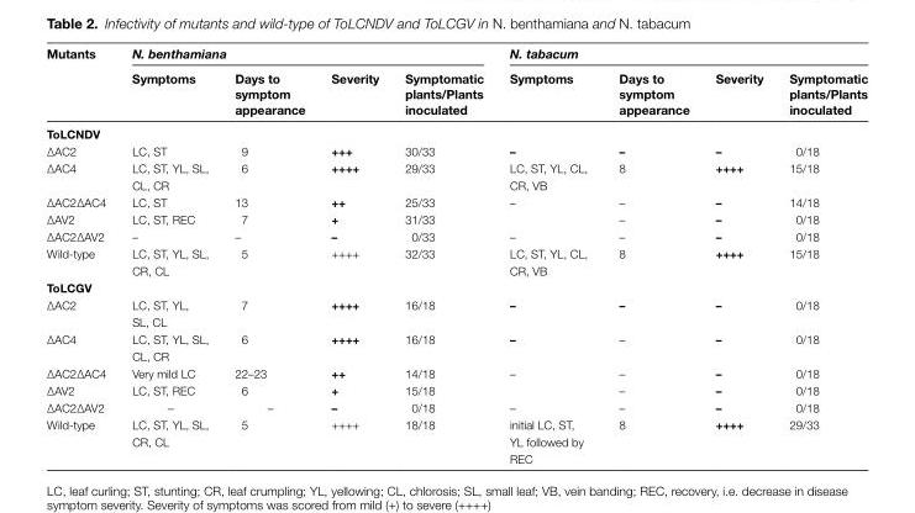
<table><thead><tr><td rowspan="2">Mutants</td><td colspan="4">N. benthamiana</td><td colspan="4">N. tabacum</td></tr><tr><td>Symptoms</td><td>Days to symptom appearance</td><td>Severity</td><td>Symptomatic plants/Plants inoculated</td><td>Symptoms</td><td>Days to symptom appearance</td><td>Severity</td><td>Symptomatic plants/Plants inoculated</td></tr></thead><tbody><tr><td colspan="9">ToLCNDV</td></tr><tr><td>∆AC2</td><td>LC, ST</td><td>9</td><td>+++</td><td>30/33</td><td>–</td><td>–</td><td>–</td><td>0/18</td></tr><tr><td>∆AC4</td><td>LC, ST, YL, SL, CL, CR</td><td>6</td><td>++++</td><td>29/33</td><td>LC, ST, YL, CL, CR, VB</td><td>8</td><td>++++</td><td>15/18</td></tr><tr><td>∆AC2∆AC4</td><td>LC, ST</td><td>13</td><td>++</td><td>25/33</td><td>–</td><td>–</td><td>–</td><td>14/18</td></tr><tr><td>∆AV2</td><td>LC, ST, REC</td><td>7</td><td>+</td><td>31/33</td><td></td><td>–</td><td>–</td><td>0/18</td></tr><tr><td>∆AC2∆AV2</td><td>–</td><td>–</td><td>–</td><td>0/33</td><td>–</td><td>–</td><td>–</td><td>0/18</td></tr><tr><td>Wild-type</td><td>LC, ST, YL, SL, CR, CL</td><td>5</td><td>++++</td><td>32/33</td><td>LC, ST, YL, CL, CR, VB</td><td>8</td><td>++++</td><td>15/18</td></tr><tr><td colspan="9">ToLCGV</td></tr><tr><td>∆AC2</td><td>LC, ST, YL, SL, CL</td><td>7</td><td>++++</td><td>16/18</td><td>–</td><td>–</td><td>–</td><td>0/18</td></tr><tr><td>∆AC4</td><td>LC, ST, YL, SL, CL, CR</td><td>6</td><td>++++</td><td>16/18</td><td>–</td><td>–</td><td>–</td><td>0/18</td></tr><tr><td>∆AC2∆AC4</td><td>Very mild LC</td><td>22–23</td><td>++</td><td>14/18</td><td>–</td><td>–</td><td>–</td><td>0/18</td></tr><tr><td>∆AV2</td><td>LC, ST, REC</td><td>6</td><td>+</td><td>15/18</td><td></td><td>–</td><td>–</td><td>0/18</td></tr><tr><td>∆AC2∆AV2</td><td>–</td><td>–</td><td>–</td><td>0/18</td><td>–</td><td>–</td><td>–</td><td>0/18</td></tr><tr><td>Wild-type</td><td>LC, ST, YL, SL, CR, CL</td><td>5</td><td>++++</td><td>18/18</td><td>initial LC, ST, YL followed by REC</td><td>8</td><td>++++</td><td>29/33</td></tr></tbody></table>